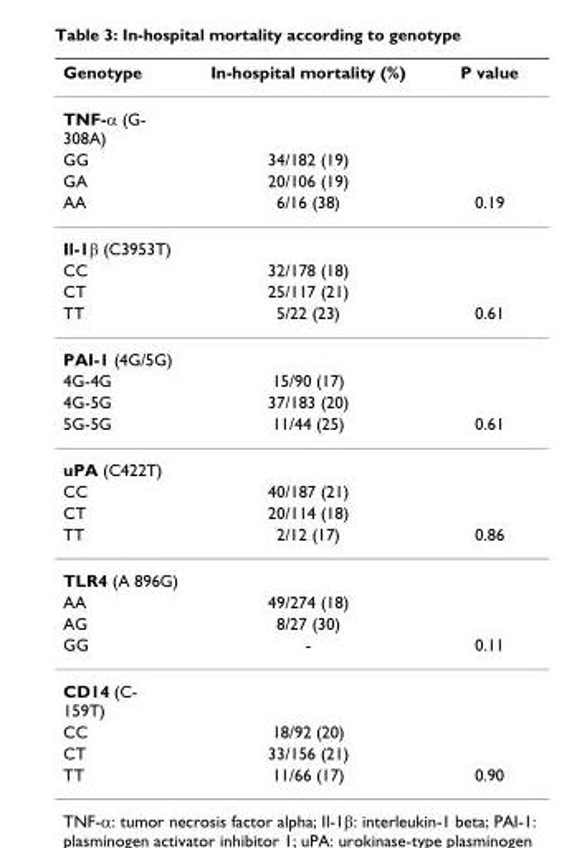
<table><thead><tr><td>Genotype</td><td>In-hospital mortality (%)</td><td>P value</td></tr></thead><tbody><tr><td colspan="3">TNF-α (G- 308A)</td></tr><tr><td>GG</td><td>34/182 (19)</td><td></td></tr><tr><td>GA</td><td>20/106 (19)</td><td></td></tr><tr><td>AA</td><td>6/16 (38)</td><td>0.19</td></tr><tr><td colspan="3">Il-1β (C3953T)</td></tr><tr><td>CC</td><td>32/178 (18)</td><td></td></tr><tr><td>CT</td><td>25/117 (21)</td><td></td></tr><tr><td>TT</td><td>5/22 (23)</td><td>0.61</td></tr><tr><td colspan="3">PAI-1 (4G/5G)</td></tr><tr><td>4G-4G</td><td>15/90 (17)</td><td></td></tr><tr><td>4G-5G</td><td>37/183 (20)</td><td></td></tr><tr><td>5G-5G</td><td>11/44 (25)</td><td>0.61</td></tr><tr><td colspan="3">uPA (C422T)</td></tr><tr><td>CC</td><td>40/187 (21)</td><td></td></tr><tr><td>CT</td><td>20/114 (18)</td><td></td></tr><tr><td>TT</td><td>2/12 (17)</td><td>0.86</td></tr><tr><td colspan="3">TLR4 (A 896G)</td></tr><tr><td>AA</td><td>49/274 (18)</td><td></td></tr><tr><td>AG</td><td>8/27 (30)</td><td></td></tr><tr><td>GG</td><td>-</td><td>0.11</td></tr><tr><td colspan="3">CD14 (C- 159T)</td></tr><tr><td>CC</td><td>18/92 (20)</td><td></td></tr><tr><td>CT</td><td>33/156 (21)</td><td></td></tr><tr><td>TT</td><td>11/66 (17)</td><td>0.90</td></tr></tbody></table>